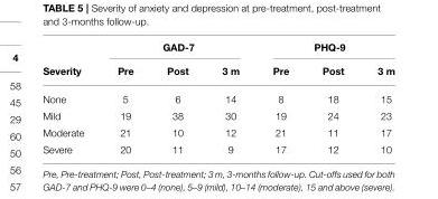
<table><thead><tr><td rowspan="2">Severity</td><td colspan="3">GAD-7</td><td colspan="3">PHQ-9</td></tr><tr><td>Pre</td><td>Post</td><td>3 m</td><td>Pre</td><td>Post</td><td>3 m</td></tr></thead><tbody><tr><td>None</td><td>5</td><td>6</td><td>14</td><td>8</td><td>18</td><td>15</td></tr><tr><td>Mild</td><td>19</td><td>38</td><td>30</td><td>19</td><td>24</td><td>23</td></tr><tr><td>Moderate</td><td>21</td><td>10</td><td>12</td><td>21</td><td>11</td><td>17</td></tr><tr><td>Severe</td><td>20</td><td>11</td><td>9</td><td>17</td><td>12</td><td>10</td></tr></tbody></table>